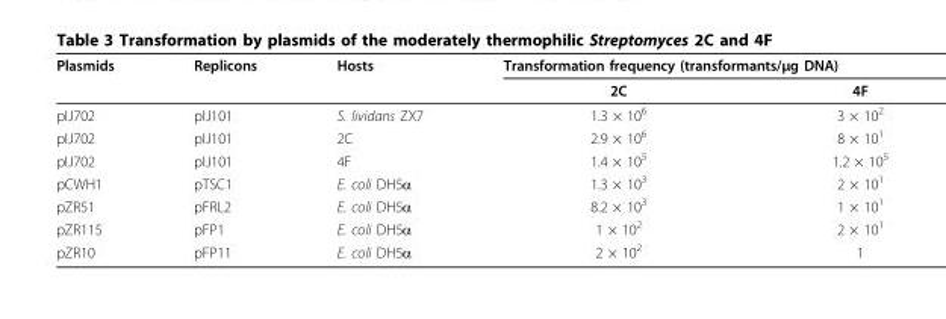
<table><thead><tr><td rowspan="2">Plasmids</td><td rowspan="2">Replicons</td><td rowspan="2">Hosts</td><td colspan="2">Transformation frequency (transformants/μg DNA)</td></tr><tr><td>2C</td><td>4F</td></tr></thead><tbody><tr><td>pIJ702</td><td>pIJ101</td><td>S. lividans ZX7</td><td>1.3 × 10<sup>6</sup></td><td>3 × 10<sup>2</sup></td></tr><tr><td>pIJ702</td><td>pIJ101</td><td>2C</td><td>2.9 × 10<sup>6</sup></td><td>8 × 10<sup>1</sup></td></tr><tr><td>pIJ702</td><td>pIJ101</td><td>4F</td><td>1.4 × 10<sup>5</sup></td><td>1.2 × 10<sup>5</sup></td></tr><tr><td>pCWH1</td><td>pTSC1</td><td>E. coli DH5α</td><td>1.3 × 10<sup>3</sup></td><td>2 × 10<sup>1</sup></td></tr><tr><td>pZR51</td><td>pFRL2</td><td>E. coli DH5α</td><td>8.2 × 10<sup>3</sup></td><td>1 × 10<sup>1</sup></td></tr><tr><td>pZR115</td><td>pFP1</td><td>E. coli DH5α</td><td>1 × 10<sup>2</sup></td><td>2 × 10<sup>1</sup></td></tr><tr><td>pZR10</td><td>pFP11</td><td>E. coli DH5α</td><td>2 × 10<sup>2</sup></td><td>1</td></tr></tbody></table>